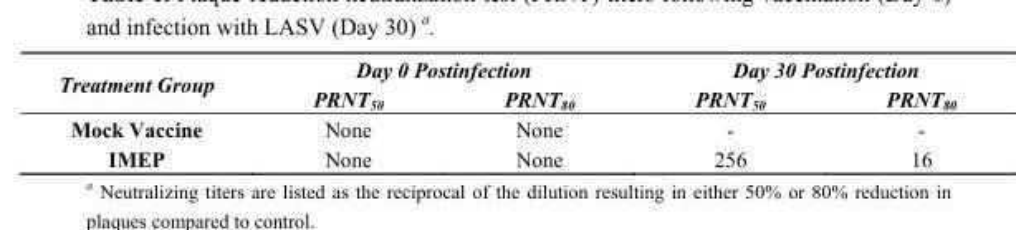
<table><thead><tr><td rowspan="2">Treatment Group</td><td colspan="2">Day 0 Postinfection</td><td colspan="2">Day 30 Postinfection</td></tr><tr><td>PRNT<sub>50</sub></td><td>PRNT<sub>80</sub></td><td>PRNT<sub>50</sub></td><td>PRNT<sub>80</sub></td></tr></thead><tbody><tr><td>Mock Vaccine</td><td>None</td><td>None</td><td>-</td><td>-</td></tr><tr><td>IMEP</td><td>None</td><td>None</td><td>256</td><td>16</td></tr></tbody></table>